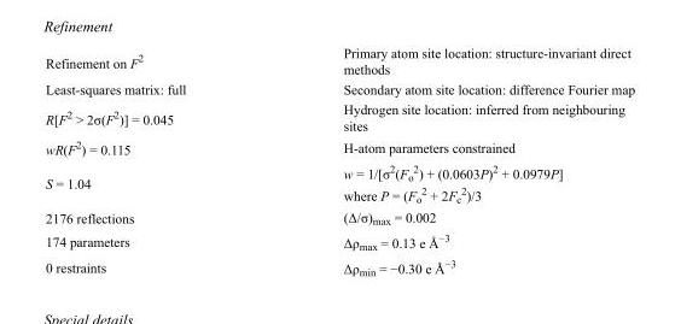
<table><tbody><tr><td>Refinement on F<sup>2</sup></td><td>Primary atom site location: structure-invariant direct methods</td></tr><tr><td>Least-squares matrix: full</td><td>Secondary atom site location: difference Fourier map</td></tr><tr><td>R[F<sup>2</sup> &gt; 2σ(F<sup>2</sup>)] = 0.045</td><td>Hydrogen site location: inferred from neighbouring sites</td></tr><tr><td>wR(F<sup>2</sup>) = 0.115</td><td>H-atom parameters constrained</td></tr><tr><td>S = 1.04</td><td>w = 1/[σ<sup>2</sup>(F<sub>o</sub> <sup>2</sup>) + (0.0603P)<sup>2</sup> + 0.0979P] where P = (F<sub>o</sub> <sup>2</sup> + 2F<sub>c</sub> <sup>2</sup>)/3</td></tr><tr><td>2176 reflections</td><td>(Δ/σ)<sub>max</sub> = 0.002</td></tr><tr><td>174 parameters</td><td>Δρ<sub>max</sub> = 0.13 e Å<sup>−3</sup></td></tr><tr><td>0 restraints</td><td>Δρ<sub>min</sub> = −0.30 e Å<sup>−3</sup></td></tr></tbody></table>